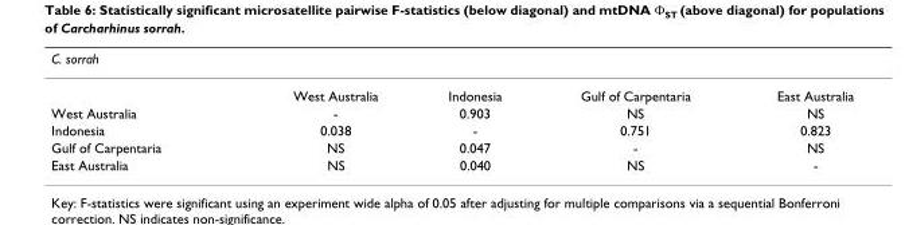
<table><thead><tr><td colspan="5">C. sorrah</td></tr><tr><td></td><td>West Australia</td><td>Indonesia</td><td>Gulf of Carpentaria</td><td>East Australia</td></tr></thead><tbody><tr><td>West Australia</td><td>-</td><td>0.903</td><td>NS</td><td>NS</td></tr><tr><td>Indonesia</td><td>0.038</td><td>-</td><td>0.751</td><td>0.823</td></tr><tr><td>Gulf of Carpentaria</td><td>NS</td><td>0.047</td><td>-</td><td>NS</td></tr><tr><td>East Australia</td><td>NS</td><td>0.040</td><td>NS</td><td>-</td></tr></tbody></table>